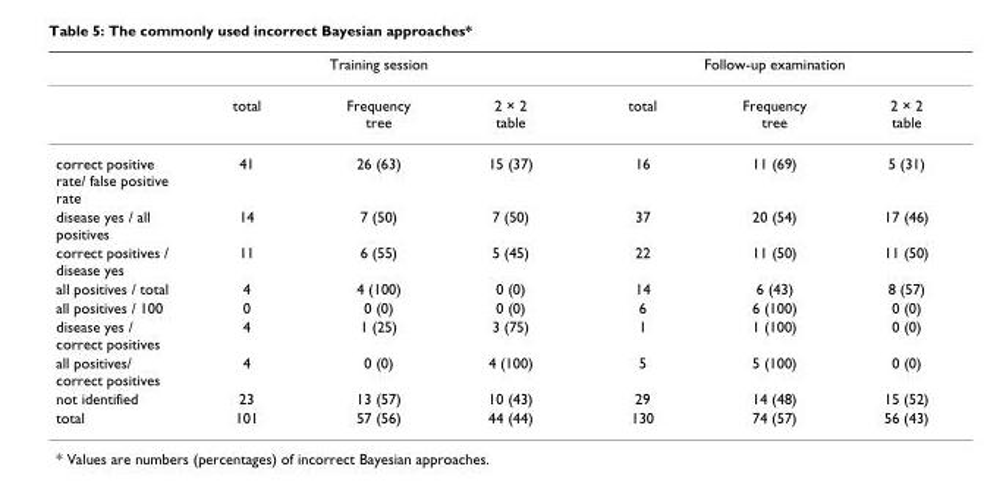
<table><thead><tr><td rowspan="2"></td><td colspan="3">Training session</td><td colspan="3">Follow-up examination</td></tr><tr><td>total</td><td>Frequency tree</td><td>2 × 2 table</td><td>total</td><td>Frequency tree</td><td>2 × 2 table</td></tr></thead><tbody><tr><td>correct positive rate/ false positive rate</td><td>41</td><td>26 (63)</td><td>15 (37)</td><td>16</td><td>11 (69)</td><td>5 (31)</td></tr><tr><td>disease yes / all positives</td><td>14</td><td>7 (50)</td><td>7 (50)</td><td>37</td><td>20 (54)</td><td>17 (46)</td></tr><tr><td>correct positives / disease yes</td><td>11</td><td>6 (55)</td><td>5 (45)</td><td>22</td><td>11 (50)</td><td>11 (50)</td></tr><tr><td>all positives / total</td><td>4</td><td>4 (100)</td><td>0 (0)</td><td>14</td><td>6 (43)</td><td>8 (57)</td></tr><tr><td>all positives / 100</td><td>0</td><td>0 (0)</td><td>0 (0)</td><td>6</td><td>6 (100)</td><td>0 (0)</td></tr><tr><td>disease yes / correct positives</td><td>4</td><td>1 (25)</td><td>3 (75)</td><td>1</td><td>1 (100)</td><td>0 (0)</td></tr><tr><td>all positives/ correct positives</td><td>4</td><td>0 (0)</td><td>4 (100)</td><td>5</td><td>5 (100)</td><td>0 (0)</td></tr><tr><td>not identified</td><td>23</td><td>13 (57)</td><td>10 (43)</td><td>29</td><td>14 (48)</td><td>15 (52)</td></tr><tr><td>total</td><td>101</td><td>57 (56)</td><td>44 (44)</td><td>130</td><td>74 (57)</td><td>56 (43)</td></tr></tbody></table>